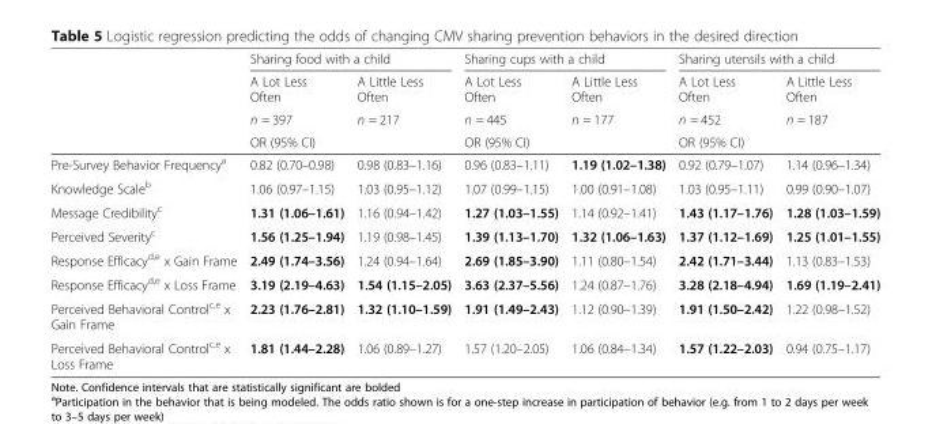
<table><thead><tr><td rowspan="4"></td><td colspan="2">Sharing food with a child</td><td colspan="2">Sharing cups with a child</td><td colspan="2">Sharing utensils with a child</td></tr><tr><td rowspan="2">A Lot Less Often n = 397</td><td rowspan="2">A Little Less Often n = 217</td><td rowspan="2">A Lot Less Often n = 445</td><td rowspan="2">A Little Less Often n = 177</td><td rowspan="2">A Lot Less Often n = 452</td><td rowspan="2">A Little Less Often n = 187</td></tr><tr></tr><tr><td colspan="2">OR (95% CI)</td><td colspan="2">OR (95% CI)</td><td colspan="2">OR (95% CI)</td></tr></thead><tbody><tr><td>Pre-Survey Behavior Frequency<sup>a</sup></td><td>0.82 (0.70–0.98)</td><td>0.98 (0.83–1.16)</td><td>0.96 (0.83–1.11)</td><td>1.19 (1.02–1.38)</td><td>0.92 (0.79–1.07)</td><td>1.14 (0.96–1.34)</td></tr><tr><td>Knowledge Scale<sup>b</sup></td><td>1.06 (0.97–1.15)</td><td>1.03 (0.95–1.12)</td><td>1.07 (0.99–1.15)</td><td>1.00 (0.91–1.08)</td><td>1.03 (0.95–1.11)</td><td>0.99 (0.90–1.07)</td></tr><tr><td>Message Credibility<sup>c</sup></td><td>1.31 (1.06–1.61)</td><td>1.16 (0.94–1.42)</td><td>1.27 (1.03–1.55)</td><td>1.14 (0.92–1.41)</td><td>1.43 (1.17–1.76)</td><td>1.28 (1.03–1.59)</td></tr><tr><td>Perceived Severity<sup>c</sup></td><td>1.56 (1.25–1.94)</td><td>1.19 (0.98–1.45)</td><td>1.39 (1.13–1.70)</td><td>1.32 (1.06–1.63)</td><td>1.37 (1.12–1.69)</td><td>1.25 (1.01–1.55)</td></tr><tr><td>Response Efficacy<sup>d,e</sup> x Gain Frame</td><td>2.49 (1.74–3.56)</td><td>1.24 (0.94–1.64)</td><td>2.69 (1.85–3.90)</td><td>1.11 (0.80–1.54)</td><td>2.42 (1.71–3.44)</td><td>1.13 (0.83–1.53)</td></tr><tr><td>Response Efficacy<sup>d,e</sup> x Loss Frame</td><td>3.19 (2.19–4.63)</td><td>1.54 (1.15–2.05)</td><td>3.63 (2.37–5.56)</td><td>1.24 (0.87–1.76)</td><td>3.28 (2.18–4.94)</td><td>1.69 (1.19–2.41)</td></tr><tr><td>Perceived Behavioral Control<sup>c,e</sup> x Gain Frame</td><td>2.23 (1.76–2.81)</td><td>1.32 (1.10–1.59)</td><td>1.91 (1.49–2.43)</td><td>1.12 (0.90–1.39)</td><td>1.91 (1.50–2.42)</td><td>1.22 (0.98–1.52)</td></tr><tr><td>Perceived Behavioral Control<sup>c,e</sup> x Loss Frame</td><td>1.81 (1.44–2.28)</td><td>1.06 (0.89–1.27)</td><td>1.57 (1.20–2.05)</td><td>1.06 (0.84–1.34)</td><td>1.57 (1.22–2.03)</td><td>0.94 (0.75–1.17)</td></tr></tbody></table>